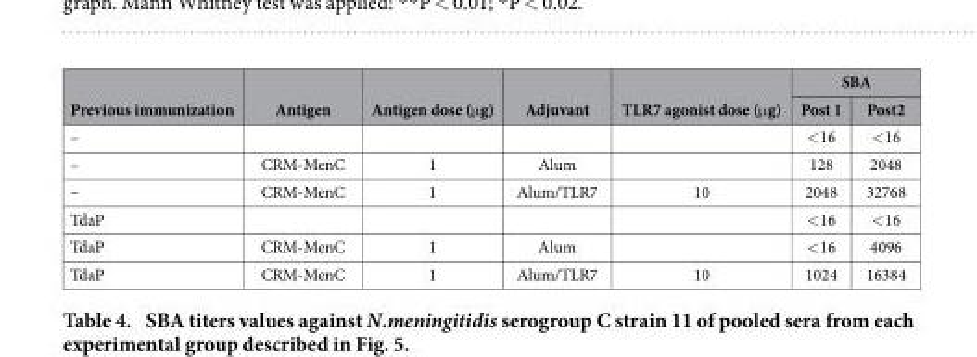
<table><thead><tr><td rowspan="2">Previous immunization</td><td rowspan="2">Antigen</td><td rowspan="2">Antigen dose (μg)</td><td rowspan="2">Adjuvant</td><td rowspan="2">TLR7 agonist dose (μg)</td><td colspan="2">SBA</td></tr><tr><td>Post 1</td><td>Post2</td></tr></thead><tbody><tr><td>–</td><td></td><td></td><td></td><td></td><td>&lt;16</td><td>&lt;16</td></tr><tr><td>–</td><td>CRM-MenC</td><td>1</td><td>Alum</td><td></td><td>128</td><td>2048</td></tr><tr><td>–</td><td>CRM-MenC</td><td>1</td><td>Alum/TLR7</td><td>10</td><td>2048</td><td>32768</td></tr><tr><td>TdaP</td><td></td><td></td><td></td><td></td><td>&lt;16</td><td>&lt;16</td></tr><tr><td>TdaP</td><td>CRM-MenC</td><td>1</td><td>Alum</td><td></td><td>&lt;16</td><td>4096</td></tr><tr><td>TdaP</td><td>CRM-MenC</td><td>1</td><td>Alum/TLR7</td><td>10</td><td>1024</td><td>16384</td></tr></tbody></table>